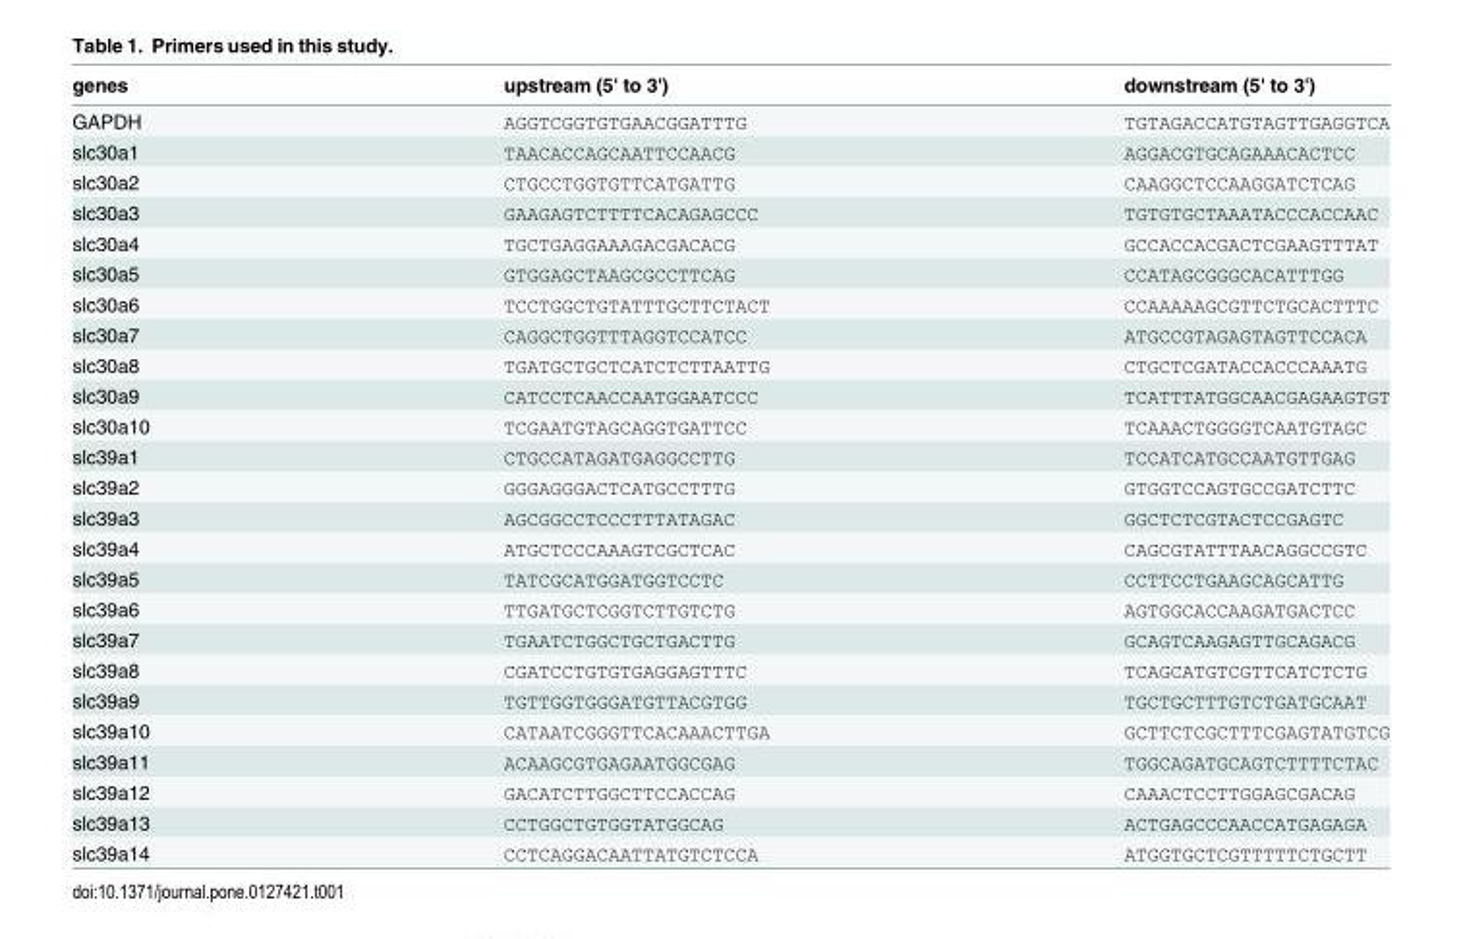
<table><thead><tr><td>genes</td><td>upstream (5&#x27; to 3&#x27;)</td><td>downstream (5&#x27; to 3&#x27;)</td></tr></thead><tbody><tr><td>GAPDH</td><td>AGGTCGGTGTGAACGGATTTG</td><td>TGTAGACCATGTAGTTGAGGTCA</td></tr><tr><td>slc30a1</td><td>TAACACCAGCAATTCCAACG</td><td>AGGACGTGCAGAAACACTCC</td></tr><tr><td>slc30a2</td><td>CTGCCTGGTGTTCATGATTG</td><td>CAAGGCTCCAAGGATCTCAG</td></tr><tr><td>slc30a3</td><td>GAAGAGTCTTTTCACAGAGCCC</td><td>TGTGTGCTAAATACCCACCAAC</td></tr><tr><td>slc30a4</td><td>TGCTGAGGAAAGACGACACG</td><td>GCCACCACGACTCGAAGTTTAT</td></tr><tr><td>slc30a5</td><td>GTGGAGCTAAGCGCCTTCAG</td><td>CCATAGCGGGCACATTTGG</td></tr><tr><td>slc30a6</td><td>TCCTGGCTGTATTTGCTTCTACT</td><td>CCAAAAAGCGTTCTGCACTTTC</td></tr><tr><td>slc30a7</td><td>CAGGCTGGTTTAGGTCCATCC</td><td>ATGCCGTAGAGTAGTTCCACA</td></tr><tr><td>slc30a8</td><td>TGATGCTGCTCATCTCTTAATTG</td><td>CTGCTCGATACCACCCAAATG</td></tr><tr><td>slc30a9</td><td>CATCCTCAACCAATGGAATCCC</td><td>TCATTTATGGCAACGAGAAGTGT</td></tr><tr><td>slc30a10</td><td>TCGAATGTAGCAGGTGATTCC</td><td>TCAAACTGGGGTCAATGTAGC</td></tr><tr><td>slc39a1</td><td>CTGCCATAGATGAGGCCTTG</td><td>TCCATCATGCCAATGTTGAG</td></tr><tr><td>slc39a2</td><td>GGGAGGGACTCATGCCTTTG</td><td>GTGGTCCAGTGCCGATCTTC</td></tr><tr><td>slc39a3</td><td>AGCGGCCTCCCTTTATAGAC</td><td>GGCTCTCGTACTCCGAGTC</td></tr><tr><td>slc39a4</td><td>ATGCTCCCAAAGTCGCTCAC</td><td>CAGCGTATTTAACAGGCCGTC</td></tr><tr><td>slc39a5</td><td>TATCGCATGGATGGTCCTC</td><td>CCTTCCTGAAGCAGCATTG</td></tr><tr><td>slc39a6</td><td>TTGATGCTCGGTCTTGTCTG</td><td>AGTGGCACCAAGATGACTCC</td></tr><tr><td>slc39a7</td><td>TGAATCTGGCTGCTGACTTG</td><td>GCAGTCAAGAGTTGCAGACG</td></tr><tr><td>slc39a8</td><td>CGATCCTGTGTGAGGAGTTTC</td><td>TCAGCATGTCGTTCATCTCTG</td></tr><tr><td>slc39a9</td><td>TGTTGGTGGGATGTTACGTGG</td><td>TGCTGCTTTGTCTGATGCAAT</td></tr><tr><td>slc39a10</td><td>CATAATCGGGTTCACAAACTTGA</td><td>GCTTCTCGCTTTCGAGTATGTCG</td></tr><tr><td>slc39a11</td><td>ACAAGCGTGAGAATGGCGAG</td><td>TGGCAGATGCAGTCTTTTCTAC</td></tr><tr><td>slc39a12</td><td>GACATCTTGGCTTCCACCAG</td><td>CAAACTCCTTGGAGCGACAG</td></tr><tr><td>slc39a13</td><td>CCTGGCTGTGGTATGGCAG</td><td>ACTGAGCCCAACCATGAGAGA</td></tr><tr><td>slc39a14</td><td>CCTCAGGACAATTATGTCTCCA</td><td>ATGGTGCTCGTTTTTCTGCTT</td></tr></tbody></table>